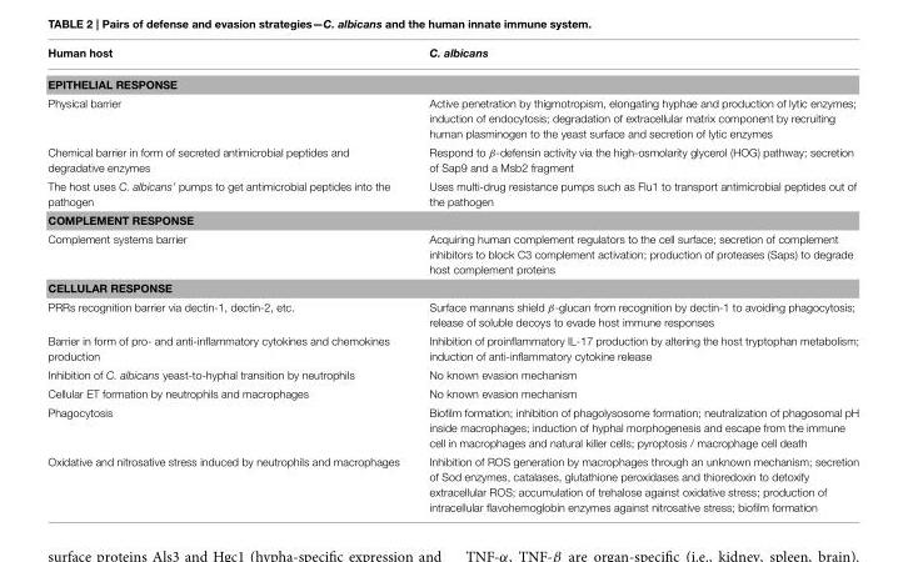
<table><thead><tr><td>Human host</td><td>C. albicans</td></tr></thead><tbody><tr><td colspan="2">EPITHELIAL RESPONSE</td></tr><tr><td>Physical barrier</td><td>Active penetration by thigmotropism, elongating hyphae and production of lytic enzymes; induction of endocytosis; degradation of extracellular matrix component by recruiting human plasminogen to the yeast surface and secretion of lytic enzymes</td></tr><tr><td>Chemical barrier in form of secreted antimicrobial peptides and degradative enzymes</td><td>Respond to β-defensin activity via the high-osmolarity glycerol (HOG) pathway; secretion of Sap9 and a Msb2 fragment</td></tr><tr><td>The host uses C. albicans’ pumps to get antimicrobial peptides into the pathogen</td><td>Uses multi-drug resistance pumps such as Flu1 to transport antimicrobial peptides out of the pathogen</td></tr><tr><td colspan="2">COMPLEMENT RESPONSE</td></tr><tr><td>Complement systems barrier</td><td>Acquiring human complement regulators to the cell surface; secretion of complement inhibitors to block C3 complement activation; production of proteases (Saps) to degrade host complement proteins</td></tr><tr><td colspan="2">CELLULAR RESPONSE</td></tr><tr><td>PRRs recognition barrier via dectin-1, dectin-2, etc.</td><td>Surface mannans shield β-glucan from recognition by dectin-1 to avoiding phagocytosis; release of soluble decoys to evade host immune responses</td></tr><tr><td>Barrier in form of pro- and anti-inflammatory cytokines and chemokines production</td><td>Inhibition of proinflammatory IL-17 production by altering the host tryptophan metabolism; induction of anti-inflammatory cytokine release</td></tr><tr><td>Inhibition of C. albicans yeast-to-hyphal transition by neutrophils</td><td>No known evasion mechanism</td></tr><tr><td>Cellular ET formation by neutrophils and macrophages</td><td>No known evasion mechanism</td></tr><tr><td>Phagocytosis</td><td>Biofilm formation; inhibition of phagolysosome formation; neutralization of phagosomal pH inside macrophages; induction of hyphal morphogenesis and escape from the immune cell in macrophages and natural killer cells; pyroptosis / macrophage cell death</td></tr><tr><td>Oxidative and nitrosative stress induced by neutrophils and macrophages</td><td>Inhibition of ROS generation by macrophages through an unknown mechanism; secretion of Sod enzymes, catalases, glutathione peroxidases and thioredoxin to detoxify extracellular ROS; accumulation of trehalose against oxidative stress; production of intracellular flavohemoglobin enzymes against nitrosative stress; biofilm formation</td></tr></tbody></table>